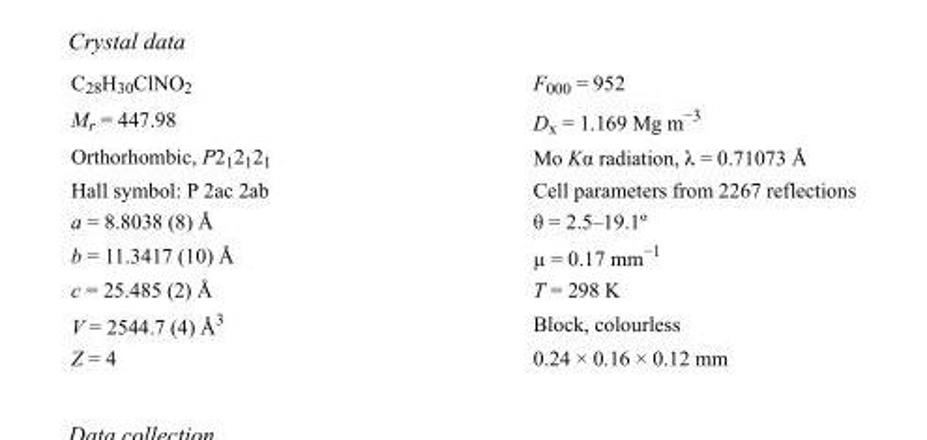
<table><tbody><tr><td>C<sub>28</sub>H<sub>30</sub>ClNO<sub>2</sub></td><td>F000 = 952</td></tr><tr><td>M<sub>r</sub> = 447.98</td><td>D<sub>x</sub> = 1.169 Mg m<sup>−3</sup></td></tr><tr><td>Orthorhombic, P2<sub>1</sub>2<sub>1</sub>2<sub>1</sub></td><td>Mo Kα radiation, λ = 0.71073 Å</td></tr><tr><td>Hall symbol: P 2ac 2ab</td><td>Cell parameters from 2267 reflections</td></tr><tr><td>a = 8.8038 (8) Å</td><td>θ = 2.5–19.1º</td></tr><tr><td>b = 11.3417 (10) Å</td><td>µ = 0.17 mm<sup>−1</sup></td></tr><tr><td>c = 25.485 (2) Å</td><td>T = 298 K</td></tr><tr><td>V = 2544.7 (4) Å<sup>3</sup></td><td>Block, colourless</td></tr><tr><td>Z = 4</td><td>0.24 × 0.16 × 0.12 mm</td></tr></tbody></table>